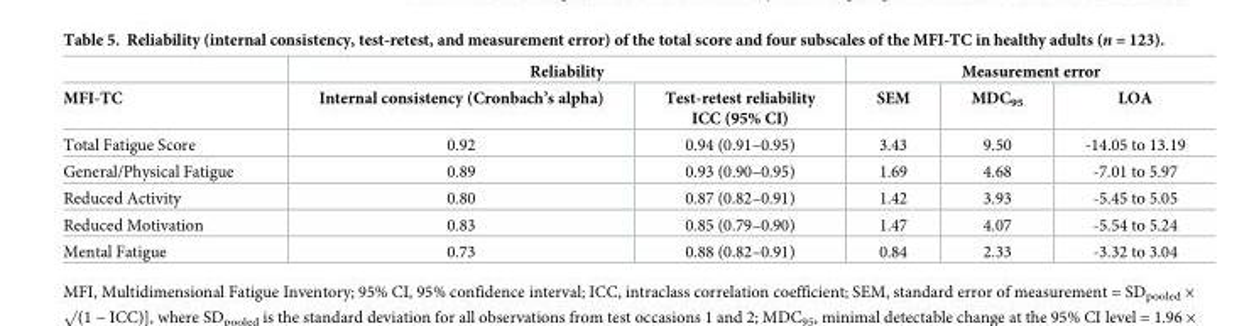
<table><thead><tr><td rowspan="2">MFI-TC</td><td colspan="2">Reliability</td><td colspan="3">Measurement error</td></tr><tr><td>Internal consistency (Cronbach’s alpha)</td><td>Test-retest reliability ICC (95% CI)</td><td>SEM</td><td>MDC<sub>95</sub></td><td>LOA</td></tr></thead><tbody><tr><td>Total Fatigue Score</td><td>0.92</td><td>0.94 (0.91–0.95)</td><td>3.43</td><td>9.50</td><td>-14.05 to 13.19</td></tr><tr><td>General/Physical Fatigue</td><td>0.89</td><td>0.93 (0.90–0.95)</td><td>1.69</td><td>4.68</td><td>-7.01 to 5.97</td></tr><tr><td>Reduced Activity</td><td>0.80</td><td>0.87 (0.82–0.91)</td><td>1.42</td><td>3.93</td><td>-5.45 to 5.05</td></tr><tr><td>Reduced Motivation</td><td>0.83</td><td>0.85 (0.79–0.90)</td><td>1.47</td><td>4.07</td><td>-5.54 to 5.24</td></tr><tr><td>Mental Fatigue</td><td>0.73</td><td>0.88 (0.82–0.91)</td><td>0.84</td><td>2.33</td><td>-3.32 to 3.04</td></tr></tbody></table>